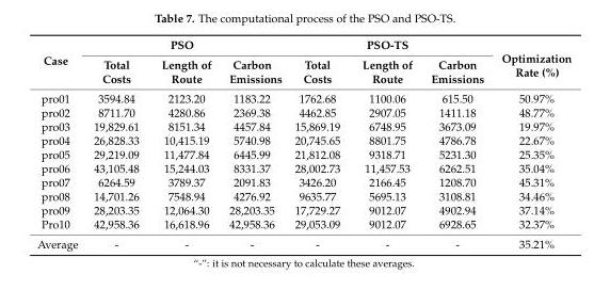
<table><thead><tr><td rowspan="2">Case</td><td colspan="3">PSO</td><td colspan="3">PSO-TS</td><td rowspan="2">Optimization Rate (%)</td></tr><tr><td>Total Costs</td><td>Length of Route</td><td>Carbon Emissions</td><td>Total Costs</td><td>Length of Route</td><td>Carbon Emissions</td></tr></thead><tbody><tr><td>pro01</td><td>3594.84</td><td>2123.20</td><td>1183.22</td><td>1762.68</td><td>1100.06</td><td>615.50</td><td>50.97%</td></tr><tr><td>pro02</td><td>8711.70</td><td>4280.86</td><td>2369.38</td><td>4462.85</td><td>2907.05</td><td>1411.18</td><td>48.77%</td></tr><tr><td>pro03</td><td>19,829.61</td><td>8151.34</td><td>4457.84</td><td>15,869.19</td><td>6748.95</td><td>3673.09</td><td>19.97%</td></tr><tr><td>pro04</td><td>26,828.33</td><td>10,415.19</td><td>5740.98</td><td>20,745.65</td><td>8801.75</td><td>4786.78</td><td>22.67%</td></tr><tr><td>pro05</td><td>29,219.09</td><td>11,477.84</td><td>6445.99</td><td>21,812.08</td><td>9318.71</td><td>5231.30</td><td>25.35%</td></tr><tr><td>pro06</td><td>43,105.48</td><td>15,244.03</td><td>8331.37</td><td>28,002.73</td><td>11,457.53</td><td>6262.51</td><td>35.04%</td></tr><tr><td>pro07</td><td>6264.59</td><td>3789.37</td><td>2091.83</td><td>3426.20</td><td>2166.45</td><td>1208.70</td><td>45.31%</td></tr><tr><td>pro08</td><td>14,701.26</td><td>7548.94</td><td>4276.92</td><td>9635.77</td><td>5695.13</td><td>3108.81</td><td>34.46%</td></tr><tr><td>pro09</td><td>28,203.35</td><td>12,064.30</td><td>28,203.35</td><td>17,729.27</td><td>9012.07</td><td>4902.94</td><td>37.14%</td></tr><tr><td>Pro10</td><td>42,958.36</td><td>16,618.96</td><td>42,958.36</td><td>29,053.09</td><td>9012.07</td><td>6928.65</td><td>32.37%</td></tr><tr><td>Average</td><td>-</td><td>-</td><td>-</td><td>-</td><td>-</td><td>-</td><td>35.21%</td></tr></tbody></table>